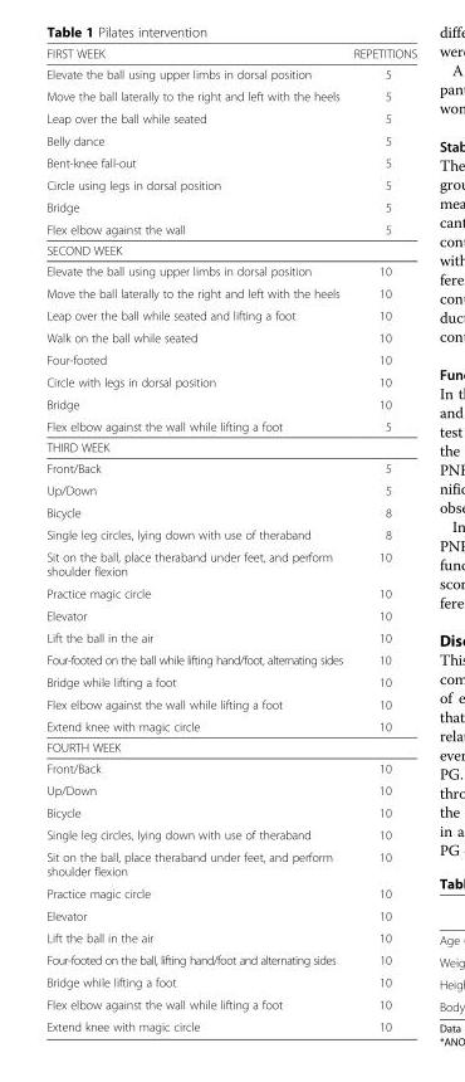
<table><thead><tr><td>FIRST WEEK</td><td>REPETITIONS</td></tr></thead><tbody><tr><td>Elevate the ball using upper limbs in dorsal position</td><td>5</td></tr><tr><td>Move the ball laterally to the right and left with the heels</td><td>5</td></tr><tr><td>Leap over the ball while seated</td><td>5</td></tr><tr><td>Belly dance</td><td>5</td></tr><tr><td>Bent-knee fall-out</td><td>5</td></tr><tr><td>Circle using legs in dorsal position</td><td>5</td></tr><tr><td>Bridge</td><td>5</td></tr><tr><td>Flex elbow against the wall</td><td>5</td></tr><tr><td colspan="2">SECOND WEEK</td></tr><tr><td>Elevate the ball using upper limbs in dorsal position</td><td>10</td></tr><tr><td>Move the ball laterally to the right and left with the heels</td><td>10</td></tr><tr><td>Leap over the ball while seated and lifting a foot</td><td>10</td></tr><tr><td>Walk on the ball while seated</td><td>10</td></tr><tr><td>Four-footed</td><td>10</td></tr><tr><td>Circle with legs in dorsal position</td><td>10</td></tr><tr><td>Bridge</td><td>10</td></tr><tr><td>Flex elbow against the wall while lifting a foot</td><td>5</td></tr><tr><td colspan="2">THIRD WEEK</td></tr><tr><td>Front/Back</td><td>5</td></tr><tr><td>Up/Down</td><td>5</td></tr><tr><td>Bicycle</td><td>8</td></tr><tr><td>Single leg circles, lying down with use of theraband</td><td>8</td></tr><tr><td>Sit on the ball, place theraband under feet, and perform shoulder flexion</td><td>10</td></tr><tr><td>Practice magic circle</td><td>10</td></tr><tr><td>Elevator</td><td>10</td></tr><tr><td>Lift the ball in the air</td><td>10</td></tr><tr><td>Four-footed on the ball while lifting hand/foot, alternating sides</td><td>10</td></tr><tr><td>Bridge while lifting a foot</td><td>10</td></tr><tr><td>Flex elbow against the wall while lifting a foot</td><td>10</td></tr><tr><td>Extend knee with magic circle</td><td>10</td></tr><tr><td colspan="2">FOURTH WEEK</td></tr><tr><td>Front/Back</td><td>10</td></tr><tr><td>Up/Down</td><td>10</td></tr><tr><td>Bicycle</td><td>10</td></tr><tr><td>Single leg circles, lying down with use of theraband</td><td>10</td></tr><tr><td>Sit on the ball, place theraband under feet, and perform shoulder flexion</td><td>10</td></tr><tr><td>Practice magic circle</td><td>10</td></tr><tr><td>Elevator</td><td>10</td></tr><tr><td>Lift the ball in the air</td><td>10</td></tr><tr><td>Four-footed on the ball, lifting hand/foot and alternating sides</td><td>10</td></tr><tr><td>Bridge while lifting a foot</td><td>10</td></tr><tr><td>Flex elbow against the wall while lifting a foot</td><td>10</td></tr><tr><td>Extend knee with magic circle</td><td>10</td></tr></tbody></table>